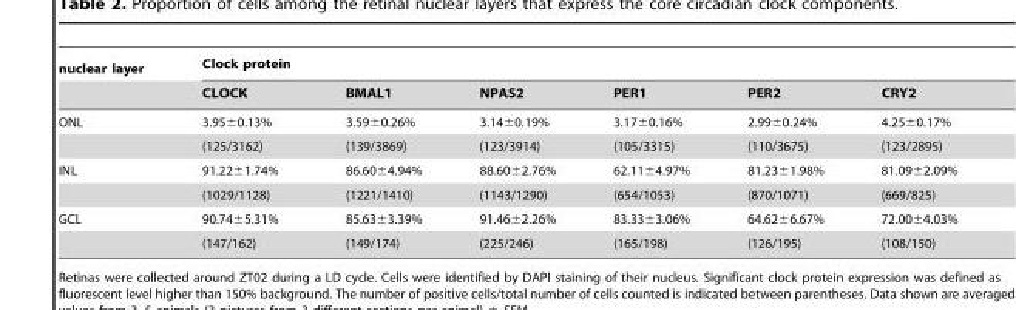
<table><thead><tr><td rowspan="2">nuclear layer</td><td colspan="6">Clock protein</td></tr><tr><td>CLOCK</td><td>BMAL1</td><td>NPAS2</td><td>PER1</td><td>PER2</td><td>CRY2</td></tr></thead><tbody><tr><td rowspan="2">ONL</td><td>3.95±0.13%</td><td>3.59±0.26%</td><td>3.14±0.19%</td><td>3.17±0.16%</td><td>2.99±0.24%</td><td>4.25±0.17%</td></tr><tr><td>(125/3162)</td><td>(139/3869)</td><td>(123/3914)</td><td>(105/3315)</td><td>(110/3675)</td><td>(123/2895)</td></tr><tr><td rowspan="2">INL</td><td>91.22±1.74%</td><td>86.60±4.94%</td><td>88.60±2.76%</td><td>62.11±4.97%</td><td>81.23±1.98%</td><td>81.09±2.09%</td></tr><tr><td>(1029/1128)</td><td>(1221/1410)</td><td>(1143/1290)</td><td>(654/1053)</td><td>(870/1071)</td><td>(669/825)</td></tr><tr><td rowspan="2">GCL</td><td>90.74±5.31%</td><td>85.63±3.39%</td><td>91.46±2.26%</td><td>83.33±3.06%</td><td>64.62±6.67%</td><td>72.00±4.03%</td></tr><tr><td>(147/162)</td><td>(149/174)</td><td>(225/246)</td><td>(165/198)</td><td>(126/195)</td><td>(108/150)</td></tr></tbody></table>